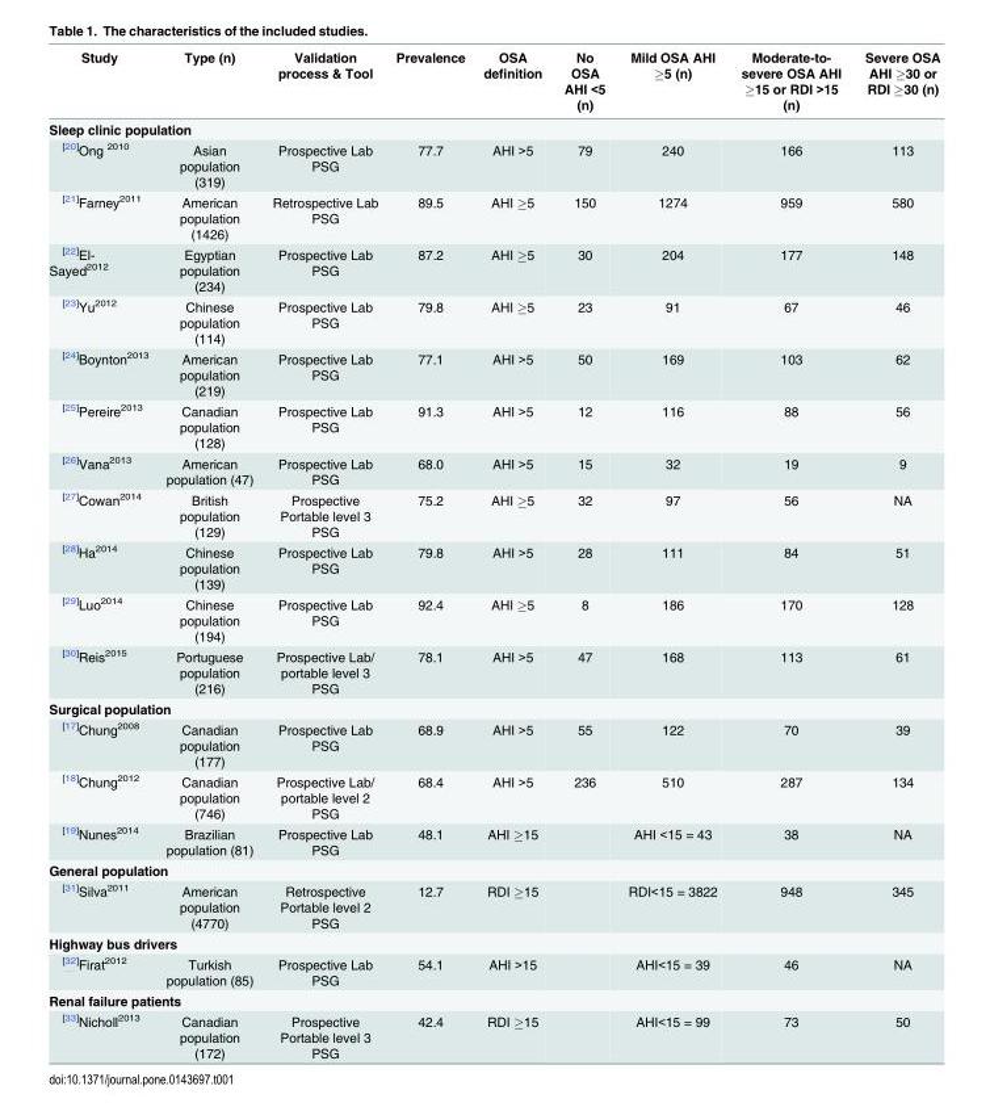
<table><thead><tr><td>Study</td><td>Type (n)</td><td>Validation process &amp; Tool</td><td>Prevalence</td><td>OSA definition</td><td>No OSA AHI &lt;5 (n)</td><td>Mild OSA AHI ≥5 (n)</td><td>Moderate-to- severe OSA AHI ≥15 or RDI &gt;15 (n)</td><td>Severe OSA AHI ≥30 or RDI ≥30 (n)</td></tr></thead><tbody><tr><td colspan="9">Sleep clinic population</td></tr><tr><td><sup>[20]</sup>Ong <sup>2010</sup></td><td>Asian population (319)</td><td>Prospective Lab PSG</td><td>77.7</td><td>AHI &gt;5</td><td>79</td><td>240</td><td>166</td><td>113</td></tr><tr><td><sup>[21]</sup>Farney<sup>2011</sup></td><td>American population (1426)</td><td>Retrospective Lab PSG</td><td>89.5</td><td>AHI ≥5</td><td>150</td><td>1274</td><td>959</td><td>580</td></tr><tr><td><sup>[22]</sup>El- Sayed<sup>2012</sup></td><td>Egyptian population (234)</td><td>Prospective Lab PSG</td><td>87.2</td><td>AHI ≥5</td><td>30</td><td>204</td><td>177</td><td>148</td></tr><tr><td><sup>[23]</sup>Yu<sup>2012</sup></td><td>Chinese population (114)</td><td>Prospective Lab PSG</td><td>79.8</td><td>AHI ≥5</td><td>23</td><td>91</td><td>67</td><td>46</td></tr><tr><td><sup>[24]</sup>Boynton<sup>2013</sup></td><td>American population (219)</td><td>Prospective Lab PSG</td><td>77.1</td><td>AHI &gt;5</td><td>50</td><td>169</td><td>103</td><td>62</td></tr><tr><td><sup>[25]</sup>Pereire<sup>2013</sup></td><td>Canadian population (128)</td><td>Prospective Lab PSG</td><td>91.3</td><td>AHI &gt;5</td><td>12</td><td>116</td><td>88</td><td>56</td></tr><tr><td><sup>[26]</sup>Vana<sup>2013</sup></td><td>American population (47)</td><td>Prospective Lab PSG</td><td>68.0</td><td>AHI &gt;5</td><td>15</td><td>32</td><td>19</td><td>9</td></tr><tr><td><sup>[27]</sup>Cowan<sup>2014</sup></td><td>British population (129)</td><td>Prospective Portable level 3 PSG</td><td>75.2</td><td>AHI ≥5</td><td>32</td><td>97</td><td>56</td><td>NA</td></tr><tr><td><sup>[28]</sup>Ha<sup>2014</sup></td><td>Chinese population (139)</td><td>Prospective Lab PSG</td><td>79.8</td><td>AHI &gt;5</td><td>28</td><td>111</td><td>84</td><td>51</td></tr><tr><td><sup>[29]</sup>Luo<sup>2014</sup></td><td>Chinese population (194)</td><td>Prospective Lab PSG</td><td>92.4</td><td>AHI ≥5</td><td>8</td><td>186</td><td>170</td><td>128</td></tr><tr><td><sup>[30]</sup>Reis<sup>2015</sup></td><td>Portuguese population (216)</td><td>Prospective Lab/ portable level 3 PSG</td><td>78.1</td><td>AHI &gt;5</td><td>47</td><td>168</td><td>113</td><td>61</td></tr><tr><td colspan="9">Surgical population</td></tr><tr><td><sup>[17]</sup>Chung<sup>2008</sup></td><td>Canadian population (177)</td><td>Prospective Lab PSG</td><td>68.9</td><td>AHI &gt;5</td><td>55</td><td>122</td><td>70</td><td>39</td></tr><tr><td><sup>[18]</sup>Chung<sup>2012</sup></td><td>Canadian population (746)</td><td>Prospective Lab/ portable level 2 PSG</td><td>68.4</td><td>AHI &gt;5</td><td>236</td><td>510</td><td>287</td><td>134</td></tr><tr><td><sup>[19]</sup>Nunes<sup>2014</sup></td><td>Brazilian population (81)</td><td>Prospective Lab PSG</td><td>48.1</td><td>AHI ≥15</td><td></td><td>AHI &lt;15 = 43</td><td>38</td><td>NA</td></tr><tr><td colspan="9">General population</td></tr><tr><td><sup>[31]</sup>Silva<sup>2011</sup></td><td>American population (4770)</td><td>Retrospective Portable level 2 PSG</td><td>12.7</td><td>RDI ≥15</td><td></td><td>RDI&lt;15 = 3822</td><td>948</td><td>345</td></tr><tr><td colspan="9">Highway bus drivers</td></tr><tr><td><sup>[32]</sup>Firat<sup>2012</sup></td><td>Turkish population (85)</td><td>Prospective Lab PSG</td><td>54.1</td><td>AHI &gt;15</td><td></td><td>AHI&lt;15 = 39</td><td>46</td><td>NA</td></tr><tr><td colspan="9">Renal failure patients</td></tr><tr><td><sup>[33]</sup>Nicholl<sup>2013</sup></td><td>Canadian population (172)</td><td>Prospective Portable level 3 PSG</td><td>42.4</td><td>RDI ≥15</td><td></td><td>AHI&lt;15 = 99</td><td>73</td><td>50</td></tr></tbody></table>